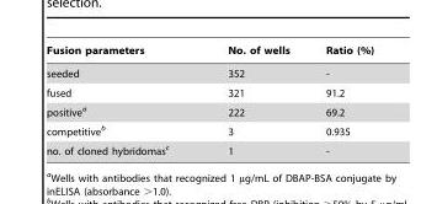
<table><thead><tr><td>Fusion parameters</td><td>No. of wells</td><td>Ratio (%)</td></tr></thead><tbody><tr><td>seeded</td><td>352</td><td>-</td></tr><tr><td>fused</td><td>321</td><td>91.2</td></tr><tr><td>positive<sup>a</sup></td><td>222</td><td>69.2</td></tr><tr><td>competitive<sup>b</sup></td><td>3</td><td>0.935</td></tr><tr><td>no. of cloned hybridomas<sup>c</sup></td><td>1</td><td>-</td></tr></tbody></table>